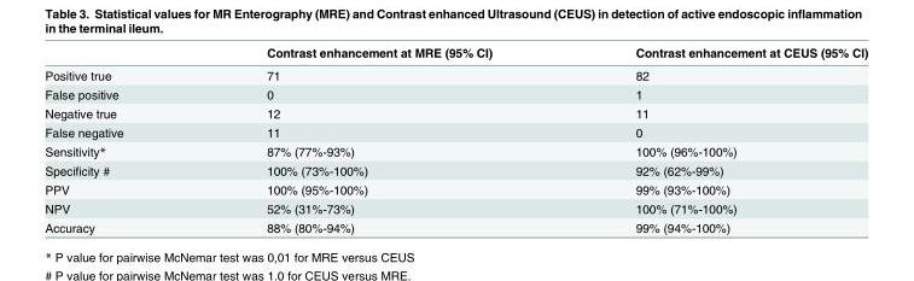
<table><thead><tr><td></td><td>Contrast enhancement at MRE (95% CI)</td><td>Contrast enhancement at CEUS (95% CI)</td></tr></thead><tbody><tr><td>Positive true</td><td>71</td><td>82</td></tr><tr><td>False positive</td><td>0</td><td>1</td></tr><tr><td>Negative true</td><td>12</td><td>11</td></tr><tr><td>False negative</td><td>11</td><td>0</td></tr><tr><td>Sensitivity*</td><td>87% (77%-93%)</td><td>100% (96%-100%)</td></tr><tr><td>Specificity #</td><td>100% (73%-100%)</td><td>92% (62%-99%)</td></tr><tr><td>PPV</td><td>100% (95%-100%)</td><td>99% (93%-100%)</td></tr><tr><td>NPV</td><td>52% (31%-73%)</td><td>100% (71%-100%)</td></tr><tr><td>Accuracy</td><td>88% (80%-94%)</td><td>99% (94%-100%)</td></tr></tbody></table>